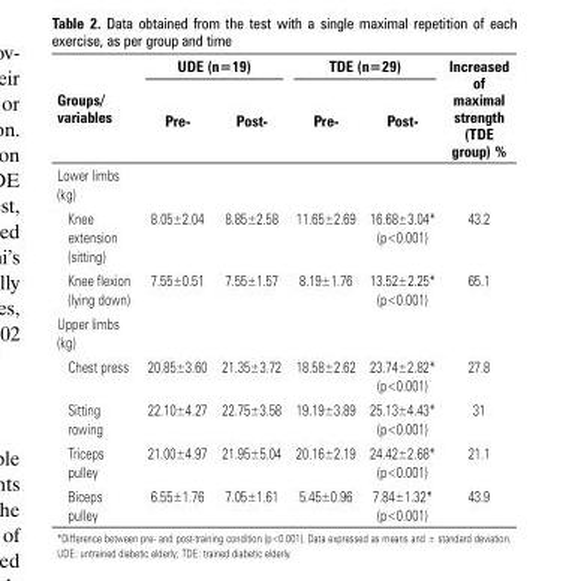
<table><thead><tr><td rowspan="2">Groups/ variables</td><td colspan="2">UDE (n=19)</td><td colspan="2">TDE (n=29)</td><td rowspan="2">Increased of maximal strength (TDE group) %</td></tr><tr><td>Pre-</td><td>Post-</td><td>Pre-</td><td>Post-</td></tr></thead><tbody><tr><td colspan="6">Lower limbs (kg)</td></tr><tr><td>Knee extension (sitting)</td><td>8.05±2.04</td><td>8.85±2.58</td><td>11.65±2.69</td><td>16.68±3.04* (p&lt;0.001)</td><td>43.2</td></tr><tr><td>Knee flexion (lying down)</td><td>7.55±0.51</td><td>7.55±1.57</td><td>8.19±1.76</td><td>13.52±2.25* (p&lt;0.001)</td><td>65.1</td></tr><tr><td colspan="6">Upper limbs (kg)</td></tr><tr><td>Chest press</td><td>20.85±3.60</td><td>21.35±3.72</td><td>18.58±2.62</td><td>23.74±2.82* (p&lt;0.001)</td><td>27.8</td></tr><tr><td>Sitting rowing</td><td>22.10±4.27</td><td>22.75±3.58</td><td>19.19±3.89</td><td>25.13±4.43* (p&lt;0.001)</td><td>31</td></tr><tr><td>Triceps pulley</td><td>21.00±4.97</td><td>21.95±5.04</td><td>20.16±2.19</td><td>24.42±2.68* (p&lt;0.001)</td><td>21.1</td></tr><tr><td>Biceps pulley</td><td>6.55±1.76</td><td>7.05±1.61</td><td>5.45±0.96</td><td>7.84±1.32* (p&lt;0.001)</td><td>43.9</td></tr></tbody></table>